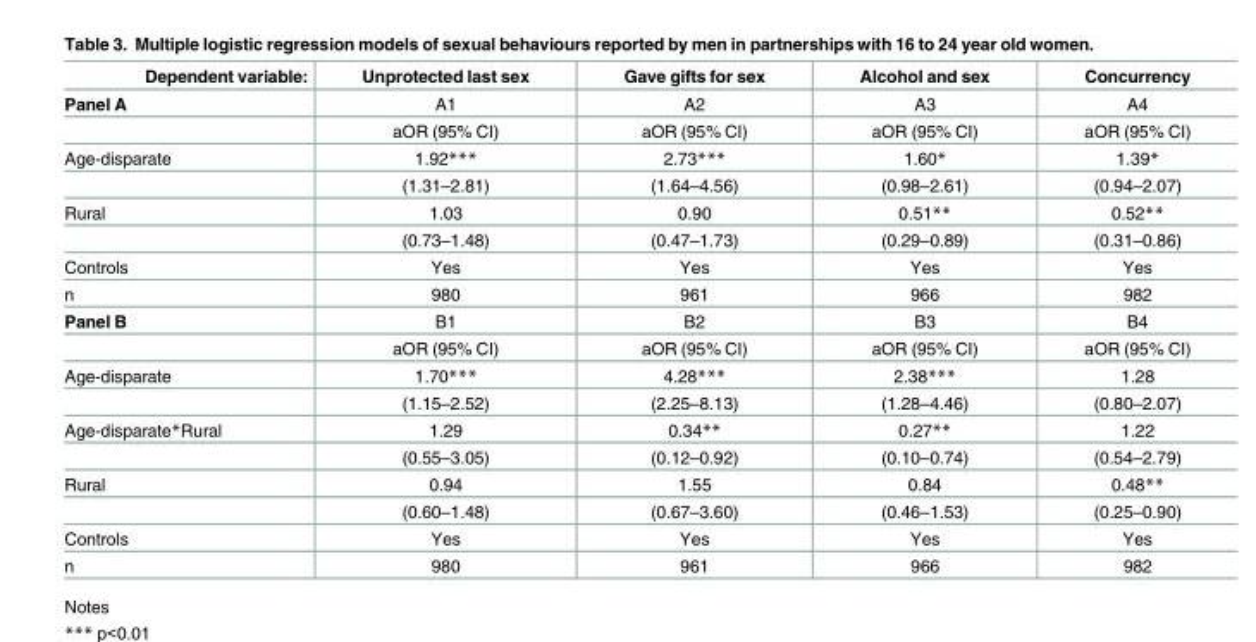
<table><thead><tr><td>Dependent variable:</td><td>Unprotected last sex</td><td>Gave gifts for sex</td><td>Alcohol and sex</td><td>Concurrency</td></tr></thead><tbody><tr><td rowspan="2">Panel A</td><td>A1</td><td>A2</td><td>A3</td><td>A4</td></tr><tr><td>aOR (95% CI)</td><td>aOR (95% CI)</td><td>aOR (95% CI)</td><td>aOR (95% CI)</td></tr><tr><td rowspan="2">Age-disparate</td><td>1.92***</td><td>2.73***</td><td>1.60*</td><td>1.39*</td></tr><tr><td>(1.31–2.81)</td><td>(1.64–4.56)</td><td>(0.98–2.61)</td><td>(0.94–2.07)</td></tr><tr><td rowspan="2">Rural</td><td>1.03</td><td>0.90</td><td>0.51**</td><td>0.52**</td></tr><tr><td>(0.73–1.48)</td><td>(0.47–1.73)</td><td>(0.29–0.89)</td><td>(0.31–0.86)</td></tr><tr><td>Controls</td><td>Yes</td><td>Yes</td><td>Yes</td><td>Yes</td></tr><tr><td>n</td><td>980</td><td>961</td><td>966</td><td>982</td></tr><tr><td rowspan="2">Panel B</td><td>B1</td><td>B2</td><td>B3</td><td>B4</td></tr><tr><td>aOR (95% CI)</td><td>aOR (95% CI)</td><td>aOR (95% CI)</td><td>aOR (95% CI)</td></tr><tr><td rowspan="2">Age-disparate</td><td>1.70***</td><td>4.28***</td><td>2.38***</td><td>1.28</td></tr><tr><td>(1.15–2.52)</td><td>(2.25–8.13)</td><td>(1.28–4.46)</td><td>(0.80–2.07)</td></tr><tr><td rowspan="2">Age-disparate*Rural</td><td>1.29</td><td>0.34**</td><td>0.27**</td><td>1.22</td></tr><tr><td>(0.55–3.05)</td><td>(0.12–0.92)</td><td>(0.10–0.74)</td><td>(0.54–2.79)</td></tr><tr><td rowspan="2">Rural</td><td>0.94</td><td>1.55</td><td>0.84</td><td>0.48**</td></tr><tr><td>(0.60–1.48)</td><td>(0.67–3.60)</td><td>(0.46–1.53)</td><td>(0.25–0.90)</td></tr><tr><td>Controls</td><td>Yes</td><td>Yes</td><td>Yes</td><td>Yes</td></tr><tr><td>n</td><td>980</td><td>961</td><td>966</td><td>982</td></tr></tbody></table>